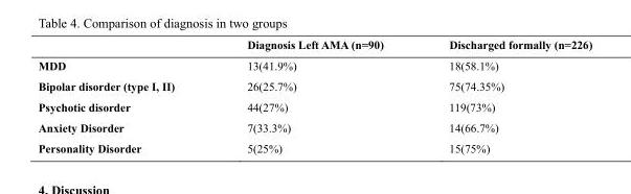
<table><thead><tr><td></td><td>Diagnosis Left AMA (n=90)</td><td>Discharged formally (n=226)</td></tr></thead><tbody><tr><td>MDD</td><td>13(41.9%)</td><td>18(58.1%)</td></tr><tr><td>Bipolar disorder (type I, II)</td><td>26(25.7%)</td><td>75(74.35%)</td></tr><tr><td>Psychotic disorder</td><td>44(27%)</td><td>119(73%)</td></tr><tr><td>Anxiety Disorder</td><td>7(33.3%)</td><td>14(66.7%)</td></tr><tr><td>Personality Disorder</td><td>5(25%)</td><td>15(75%)</td></tr></tbody></table>